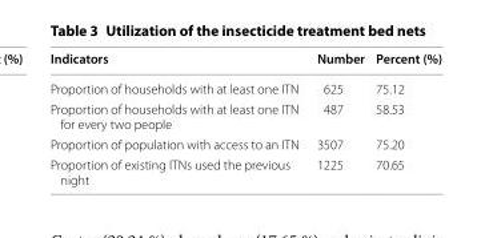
<table><thead><tr><td>Indicators</td><td>Number</td><td>Percent (%)</td></tr></thead><tbody><tr><td>Proportion of households with at least one ITN</td><td>625</td><td>75.12</td></tr><tr><td>Proportion of households with at least one ITN for every two people</td><td>487</td><td>58.53</td></tr><tr><td>Proportion of population with access to an ITN</td><td>3507</td><td>75.20</td></tr><tr><td>Proportion of existing ITNs used the previous night</td><td>1225</td><td>70.65</td></tr></tbody></table>